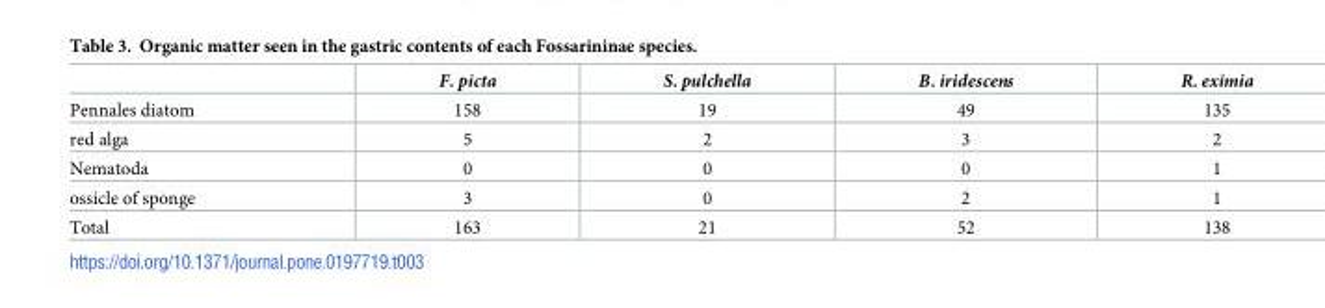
<table><thead><tr><td></td><td>F. picta</td><td>S. pulchella</td><td>B. iridescens</td><td>R. eximia</td></tr></thead><tbody><tr><td>Pennales diatom</td><td>158</td><td>19</td><td>49</td><td>135</td></tr><tr><td>red alga</td><td>5</td><td>2</td><td>3</td><td>2</td></tr><tr><td>Nematoda</td><td>0</td><td>0</td><td>0</td><td>1</td></tr><tr><td>ossicle of sponge</td><td>3</td><td>0</td><td>2</td><td>1</td></tr><tr><td>Total</td><td>163</td><td>21</td><td>52</td><td>138</td></tr></tbody></table>